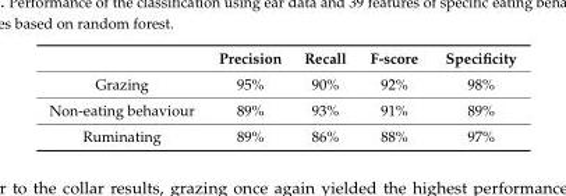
<table><thead><tr><td></td><td>Precision</td><td>Recall</td><td>F-score</td><td>Specificity</td></tr></thead><tbody><tr><td>Grazing</td><td>95%</td><td>90%</td><td>92%</td><td>98%</td></tr><tr><td>Non-eating behaviour</td><td>89%</td><td>93%</td><td>91%</td><td>89%</td></tr><tr><td>Ruminating</td><td>89%</td><td>86%</td><td>88%</td><td>97%</td></tr></tbody></table>